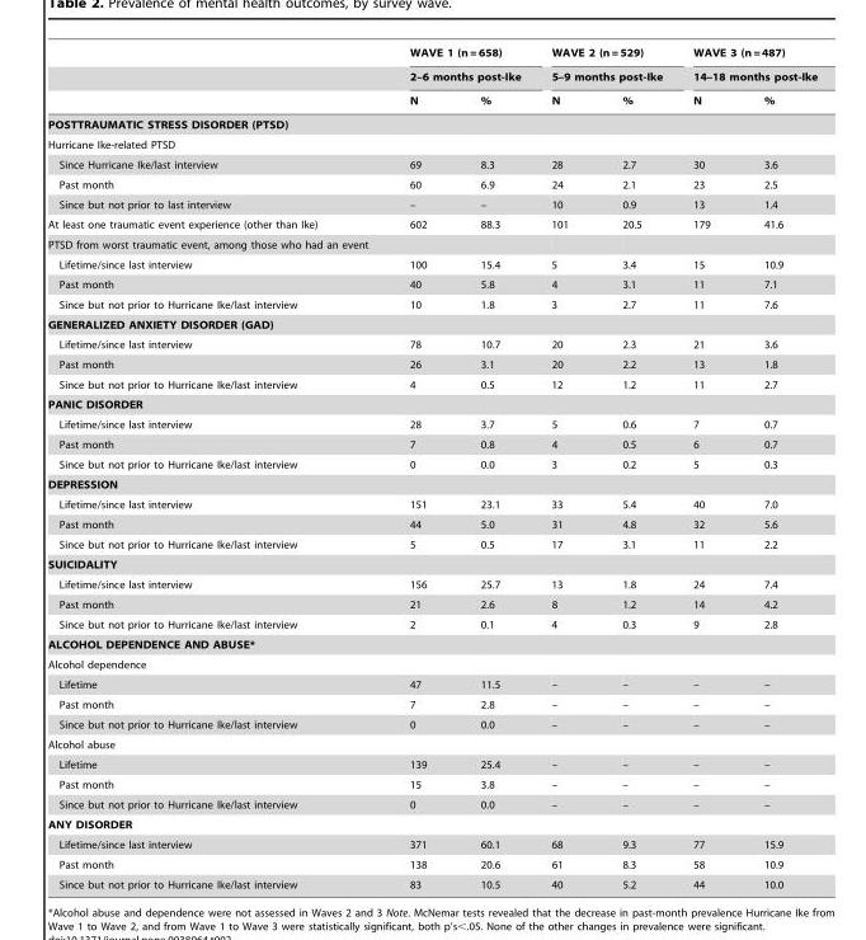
<table><thead><tr><td rowspan="3"></td><td rowspan="2" colspan="2">WAVE 1 (n = 658) 2–6 months post-Ike</td><td rowspan="2" colspan="2">WAVE 2 (n = 529) 5–9 months post-Ike</td><td rowspan="2" colspan="2">WAVE 3 (n = 487) 14–18 months post-Ike</td></tr><tr></tr><tr><td>N</td><td>%</td><td>N</td><td>%</td><td>N</td><td>%</td></tr></thead><tbody><tr><td colspan="7">POSTTRAUMATIC STRESS DISORDER (PTSD)</td></tr><tr><td colspan="7">Hurricane Ike-related PTSD</td></tr><tr><td>Since Hurricane Ike/last interview</td><td>69</td><td>8.3</td><td>28</td><td>2.7</td><td>30</td><td>3.6</td></tr><tr><td>Past month</td><td>60</td><td>6.9</td><td>24</td><td>2.1</td><td>23</td><td>2.5</td></tr><tr><td>Since but not prior to last interview</td><td>–</td><td>–</td><td>10</td><td>0.9</td><td>13</td><td>1.4</td></tr><tr><td>At least one traumatic event experience (other than Ike)</td><td>602</td><td>88.3</td><td>101</td><td>20.5</td><td>179</td><td>41.6</td></tr><tr><td colspan="7">PTSD from worst traumatic event, among those who had an event</td></tr><tr><td>Lifetime/since last interview</td><td>100</td><td>15.4</td><td>5</td><td>3.4</td><td>15</td><td>10.9</td></tr><tr><td>Past month</td><td>40</td><td>5.8</td><td>4</td><td>3.1</td><td>11</td><td>7.1</td></tr><tr><td>Since but not prior to Hurricane Ike/last interview</td><td>10</td><td>1.8</td><td>3</td><td>2.7</td><td>11</td><td>7.6</td></tr><tr><td colspan="7">GENERALIZED ANXIETY DISORDER (GAD)</td></tr><tr><td>Lifetime/since last interview</td><td>78</td><td>10.7</td><td>20</td><td>2.3</td><td>21</td><td>3.6</td></tr><tr><td>Past month</td><td>26</td><td>3.1</td><td>20</td><td>2.2</td><td>13</td><td>1.8</td></tr><tr><td>Since but not prior to Hurricane Ike/last interview</td><td>4</td><td>0.5</td><td>12</td><td>1.2</td><td>11</td><td>2.7</td></tr><tr><td colspan="7">PANIC DISORDER</td></tr><tr><td>Lifetime/since last interview</td><td>28</td><td>3.7</td><td>5</td><td>0.6</td><td>7</td><td>0.7</td></tr><tr><td>Past month</td><td>7</td><td>0.8</td><td>4</td><td>0.5</td><td>6</td><td>0.7</td></tr><tr><td>Since but not prior to Hurricane Ike/last interview</td><td>0</td><td>0.0</td><td>3</td><td>0.2</td><td>5</td><td>0.3</td></tr><tr><td colspan="7">DEPRESSION</td></tr><tr><td>Lifetime/since last interview</td><td>151</td><td>23.1</td><td>33</td><td>5.4</td><td>40</td><td>7.0</td></tr><tr><td>Past month</td><td>44</td><td>5.0</td><td>31</td><td>4.8</td><td>32</td><td>5.6</td></tr><tr><td>Since but not prior to Hurricane Ike/last interview</td><td>5</td><td>0.5</td><td>17</td><td>3.1</td><td>11</td><td>2.2</td></tr><tr><td colspan="7">SUICIDALITY</td></tr><tr><td>Lifetime/since last interview</td><td>156</td><td>25.7</td><td>13</td><td>1.8</td><td>24</td><td>7.4</td></tr><tr><td>Past month</td><td>21</td><td>2.6</td><td>8</td><td>1.2</td><td>14</td><td>4.2</td></tr><tr><td>Since but not prior to Hurricane Ike/last interview</td><td>2</td><td>0.1</td><td>4</td><td>0.3</td><td>9</td><td>2.8</td></tr><tr><td colspan="7">ALCOHOL DEPENDENCE AND ABUSE*</td></tr><tr><td colspan="7">Alcohol dependence</td></tr><tr><td>Lifetime</td><td>47</td><td>11.5</td><td>–</td><td>–</td><td>–</td><td>–</td></tr><tr><td>Past month</td><td>7</td><td>2.8</td><td>–</td><td>–</td><td>–</td><td>–</td></tr><tr><td>Since but not prior to Hurricane Ike/last interview</td><td>0</td><td>0.0</td><td>–</td><td>–</td><td>–</td><td>–</td></tr><tr><td colspan="7">Alcohol abuse</td></tr><tr><td>Lifetime</td><td>139</td><td>25.4</td><td>–</td><td>–</td><td>–</td><td>–</td></tr><tr><td>Past month</td><td>15</td><td>3.8</td><td>–</td><td>–</td><td>–</td><td>–</td></tr><tr><td>Since but not prior to Hurricane Ike/last interview</td><td>0</td><td>0.0</td><td>–</td><td>–</td><td>–</td><td>–</td></tr><tr><td colspan="7">ANY DISORDER</td></tr><tr><td>Lifetime/since last interview</td><td>371</td><td>60.1</td><td>68</td><td>9.3</td><td>77</td><td>15.9</td></tr><tr><td>Past month</td><td>138</td><td>20.6</td><td>61</td><td>8.3</td><td>58</td><td>10.9</td></tr><tr><td>Since but not prior to Hurricane Ike/last interview</td><td>83</td><td>10.5</td><td>40</td><td>5.2</td><td>44</td><td>10.0</td></tr></tbody></table>